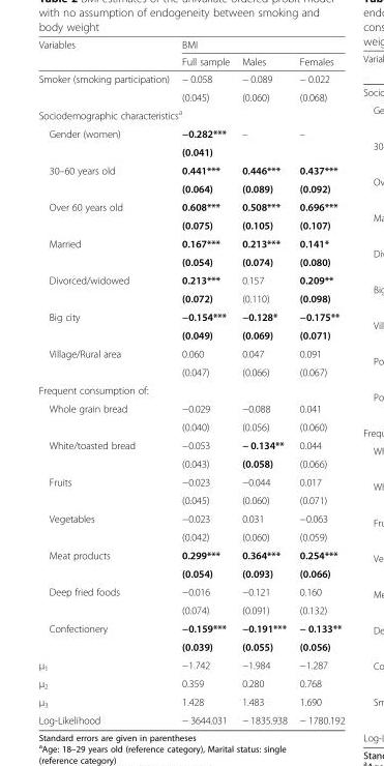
<table><thead><tr><td rowspan="2">Variables</td><td colspan="3">BMI</td></tr><tr><td>Full sample</td><td>Males</td><td>Females</td></tr></thead><tbody><tr><td rowspan="2">Smoker (smoking participation)</td><td>− 0.058</td><td>− 0.089</td><td>− 0.022</td></tr><tr><td>(0.045)</td><td>(0.060)</td><td>(0.068)</td></tr><tr><td colspan="4">Sociodemographic characteristics<sup>a</sup></td></tr><tr><td rowspan="2">Gender (women)</td><td>−0.282***</td><td>–</td><td>–</td></tr><tr><td>(0.041)</td><td></td><td></td></tr><tr><td rowspan="2">30–60 years old</td><td>0.441***</td><td>0.446***</td><td>0.437***</td></tr><tr><td>(0.064)</td><td>(0.089)</td><td>(0.092)</td></tr><tr><td rowspan="2">Over 60 years old</td><td>0.608***</td><td>0.508***</td><td>0.696***</td></tr><tr><td>(0.075)</td><td>(0.105)</td><td>(0.107)</td></tr><tr><td rowspan="2">Married</td><td>0.167***</td><td>0.213***</td><td>0.141*</td></tr><tr><td>(0.054)</td><td>(0.074)</td><td>(0.080)</td></tr><tr><td rowspan="2">Divorced/widowed</td><td>0.213***</td><td>0.157</td><td>0.209**</td></tr><tr><td>(0.072)</td><td>(0.110)</td><td>(0.098)</td></tr><tr><td rowspan="2">Big city</td><td>−0.154***</td><td>−0.128*</td><td>−0.175**</td></tr><tr><td>(0.049)</td><td>(0.069)</td><td>(0.071)</td></tr><tr><td rowspan="2">Village/Rural area</td><td>0.060</td><td>0.047</td><td>0.091</td></tr><tr><td>(0.047)</td><td>(0.066)</td><td>(0.067)</td></tr><tr><td colspan="4">Frequent consumption of:</td></tr><tr><td rowspan="2">Whole grain bread</td><td>−0.029</td><td>−0.088</td><td>0.041</td></tr><tr><td>(0.040)</td><td>(0.056)</td><td>(0.060)</td></tr><tr><td rowspan="2">White/toasted bread</td><td>−0.053</td><td>− 0.134**</td><td>0.044</td></tr><tr><td>(0.043)</td><td>(0.058)</td><td>(0.066)</td></tr><tr><td rowspan="2">Fruits</td><td>−0.023</td><td>−0.044</td><td>0.017</td></tr><tr><td>(0.045)</td><td>(0.060)</td><td>(0.071)</td></tr><tr><td rowspan="2">Vegetables</td><td>−0.023</td><td>0.031</td><td>−0.063</td></tr><tr><td>(0.042)</td><td>(0.060)</td><td>(0.059)</td></tr><tr><td rowspan="2">Meat products</td><td>0.299***</td><td>0.364***</td><td>0.254***</td></tr><tr><td>(0.054)</td><td>(0.093)</td><td>(0.066)</td></tr><tr><td rowspan="2">Deep fried foods</td><td>−0.016</td><td>−0.121</td><td>0.160</td></tr><tr><td>(0.074)</td><td>(0.091)</td><td>(0.132)</td></tr><tr><td rowspan="2">Confectionery</td><td>−0.159***</td><td>−0.191***</td><td>− 0.133**</td></tr><tr><td>(0.039)</td><td>(0.055)</td><td>(0.056)</td></tr><tr><td>μ<sub>1</sub></td><td>−1.742</td><td>−1.984</td><td>−1.287</td></tr><tr><td>μ<sub>2</sub></td><td>0.359</td><td>0.280</td><td>0.768</td></tr><tr><td>μ<sub>3</sub></td><td>1.428</td><td>1.483</td><td>1.690</td></tr><tr><td>Log-Likelihood</td><td>− 3644.031</td><td>− 1835.938</td><td>− 1780.192</td></tr></tbody></table>